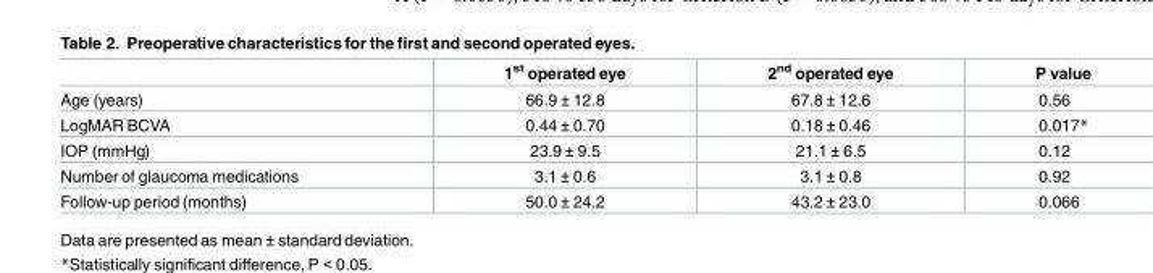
<table><thead><tr><td></td><td>1<sup>st</sup> operated eye</td><td>2<sup>nd</sup> operated eye</td><td>P value</td></tr></thead><tbody><tr><td>Age (years)</td><td>66.9 ± 12.8</td><td>67.8 ± 12.6</td><td>0.56</td></tr><tr><td>LogMAR BCVA</td><td>0.44 ± 0.70</td><td>0.18 ± 0.46</td><td>0.017*</td></tr><tr><td>IOP (mmHg)</td><td>23.9 ± 9.5</td><td>21.1 ± 6.5</td><td>0.12</td></tr><tr><td>Number of glaucoma medications</td><td>3.1 ± 0.6</td><td>3.1 ± 0.8</td><td>0.92</td></tr><tr><td>Follow-up period (months)</td><td>50.0 ± 24.2</td><td>43.2 ± 23.0</td><td>0.066</td></tr></tbody></table>